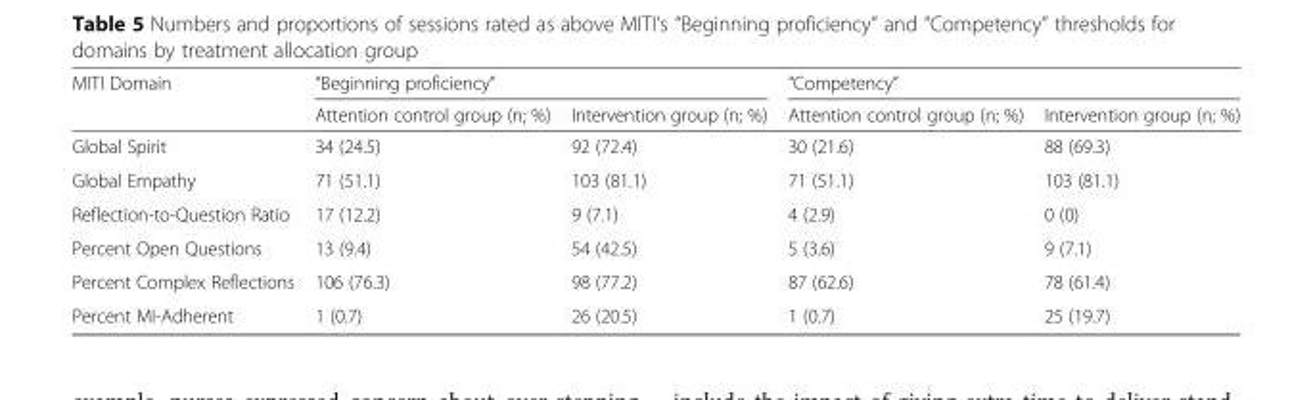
<table><thead><tr><td rowspan="2">MITI Domain</td><td colspan="2">“Beginning proficiency”</td><td colspan="2">“Competency”</td></tr><tr><td>Attention control group (n; %)</td><td>Intervention group (n; %)</td><td>Attention control group (n; %)</td><td>Intervention group (n; %)</td></tr></thead><tbody><tr><td>Global Spirit</td><td>34 (24.5)</td><td>92 (72.4)</td><td>30 (21.6)</td><td>88 (69.3)</td></tr><tr><td>Global Empathy</td><td>71 (51.1)</td><td>103 (81.1)</td><td>71 (51.1)</td><td>103 (81.1)</td></tr><tr><td>Reflection-to-Question Ratio</td><td>17 (12.2)</td><td>9 (7.1)</td><td>4 (2.9)</td><td>0 (0)</td></tr><tr><td>Percent Open Questions</td><td>13 (9.4)</td><td>54 (42.5)</td><td>5 (3.6)</td><td>9 (7.1)</td></tr><tr><td>Percent Complex Reflections</td><td>106 (76.3)</td><td>98 (77.2)</td><td>87 (62.6)</td><td>78 (61.4)</td></tr><tr><td>Percent MI-Adherent</td><td>1 (0.7)</td><td>26 (20.5)</td><td>1 (0.7)</td><td>25 (19.7)</td></tr></tbody></table>